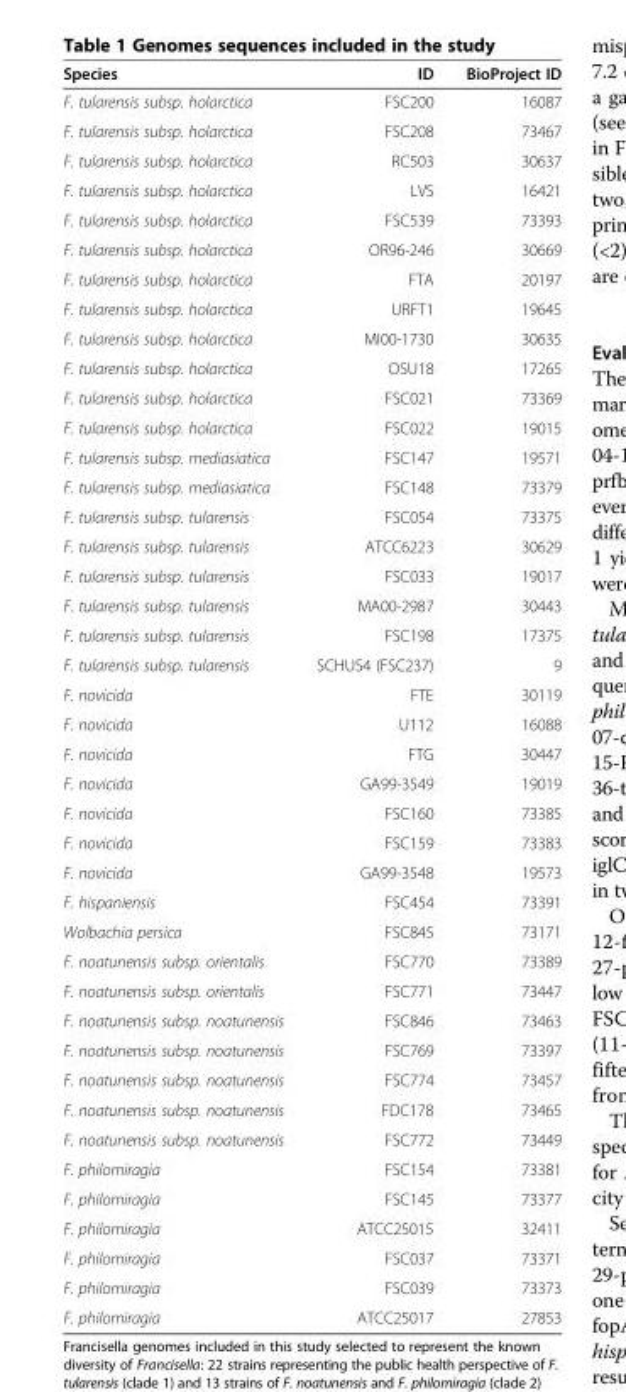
<table><thead><tr><td>Species</td><td>ID</td><td>BioProject ID</td></tr></thead><tbody><tr><td>F. tularensis subsp. holarctica</td><td>FSC200</td><td>16087</td></tr><tr><td>F. tularensis subsp. holarctica</td><td>FSC208</td><td>73467</td></tr><tr><td>F. tularensis subsp. holarctica</td><td>RC503</td><td>30637</td></tr><tr><td>F. tularensis subsp. holarctica</td><td>LVS</td><td>16421</td></tr><tr><td>F. tularensis subsp. holarctica</td><td>FSC539</td><td>73393</td></tr><tr><td>F. tularensis subsp. holarctica</td><td>OR96-246</td><td>30669</td></tr><tr><td>F. tularensis subsp. holarctica</td><td>FTA</td><td>20197</td></tr><tr><td>F. tularensis subsp. holarctica</td><td>URFT1</td><td>19645</td></tr><tr><td>F. tularensis subsp. holarctica</td><td>MI00-1730</td><td>30635</td></tr><tr><td>F. tularensis subsp. holarctica</td><td>OSU18</td><td>17265</td></tr><tr><td>F. tularensis subsp. holarctica</td><td>FSC021</td><td>73369</td></tr><tr><td>F. tularensis subsp. holarctica</td><td>FSC022</td><td>19015</td></tr><tr><td>F. tularensis subsp. mediasiatica</td><td>FSC147</td><td>19571</td></tr><tr><td>F. tularensis subsp. mediasiatica</td><td>FSC148</td><td>73379</td></tr><tr><td>F. tularensis subsp. tularensis</td><td>FSC054</td><td>73375</td></tr><tr><td>F. tularensis subsp. tularensis</td><td>ATCC6223</td><td>30629</td></tr><tr><td>F. tularensis subsp. tularensis</td><td>FSC033</td><td>19017</td></tr><tr><td>F. tularensis subsp. tularensis</td><td>MA00-2987</td><td>30443</td></tr><tr><td>F. tularensis subsp. tularensis</td><td>FSC198</td><td>17375</td></tr><tr><td>F. tularensis subsp. tularensis</td><td>SCHUS4 (FSC237)</td><td>9</td></tr><tr><td>F. novicida</td><td>FTE</td><td>30119</td></tr><tr><td>F. novicida</td><td>U112</td><td>16088</td></tr><tr><td>F. novicida</td><td>FTG</td><td>30447</td></tr><tr><td>F. novicida</td><td>GA99-3549</td><td>19019</td></tr><tr><td>F. novicida</td><td>FSC160</td><td>73385</td></tr><tr><td>F. novicida</td><td>FSC159</td><td>73383</td></tr><tr><td>F. novicida</td><td>GA99-3548</td><td>19573</td></tr><tr><td>F. hispaniensis</td><td>FSC454</td><td>73391</td></tr><tr><td>Wolbachia persica</td><td>FSC845</td><td>73171</td></tr><tr><td>F. noatunensis subsp. orientalis</td><td>FSC770</td><td>73389</td></tr><tr><td>F. noatunensis subsp. orientalis</td><td>FSC771</td><td>73447</td></tr><tr><td>F. noatunensis subsp. noatunensis</td><td>FSC846</td><td>73463</td></tr><tr><td>F. noatunensis subsp. noatunensis</td><td>FSC769</td><td>73397</td></tr><tr><td>F. noatunensis subsp. noatunensis</td><td>FSC774</td><td>73457</td></tr><tr><td>F. noatunensis subsp. noatunensis</td><td>FDC178</td><td>73465</td></tr><tr><td>F. noatunensis subsp. noatunensis</td><td>FSC772</td><td>73449</td></tr><tr><td>F. philomiragia</td><td>FSC154</td><td>73381</td></tr><tr><td>F. philomiragia</td><td>FSC145</td><td>73377</td></tr><tr><td>F. philomiragia</td><td>ATCC25015</td><td>32411</td></tr><tr><td>F. philomiragia</td><td>FSC037</td><td>73371</td></tr><tr><td>F. philomiragia</td><td>FSC039</td><td>73373</td></tr><tr><td>F. philomiragia</td><td>ATCC25017</td><td>27853</td></tr></tbody></table>